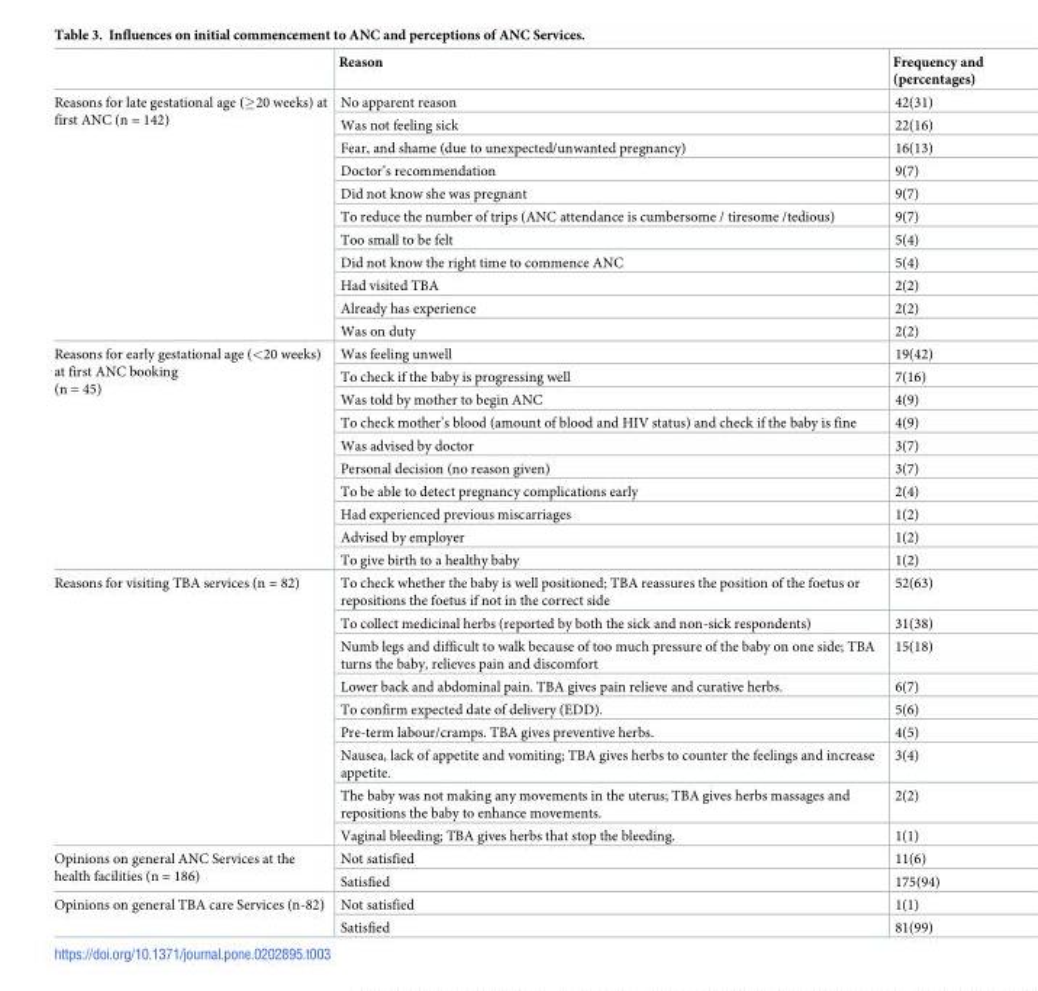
<table><thead><tr><td></td><td>Reason</td><td>Frequency and (percentages)</td></tr></thead><tbody><tr><td rowspan="11">Reasons for late gestational age (≥20 weeks) at first ANC (n = 142)</td><td>No apparent reason</td><td>42(31)</td></tr><tr><td>Was not feeling sick</td><td>22(16)</td></tr><tr><td>Fear, and shame (due to unexpected/unwanted pregnancy)</td><td>16(13)</td></tr><tr><td>Doctor’s recommendation</td><td>9(7)</td></tr><tr><td>Did not know she was pregnant</td><td>9(7)</td></tr><tr><td>To reduce the number of trips (ANC attendance is cumbersome / tiresome /tedious)</td><td>9(7)</td></tr><tr><td>Too small to be felt</td><td>5(4)</td></tr><tr><td>Did not know the right time to commence ANC</td><td>5(4)</td></tr><tr><td>Had visited TBA</td><td>2(2)</td></tr><tr><td>Already has experience</td><td>2(2)</td></tr><tr><td>Was on duty</td><td>2(2)</td></tr><tr><td rowspan="10">Reasons for early gestational age (&lt;20 weeks) at first ANC booking (n = 45)</td><td>Was feeling unwell</td><td>19(42)</td></tr><tr><td>To check if the baby is progressing well</td><td>7(16)</td></tr><tr><td>Was told by mother to begin ANC</td><td>4(9)</td></tr><tr><td>To check mother’s blood (amount of blood and HIV status) and check if the baby is fine</td><td>4(9)</td></tr><tr><td>Was advised by doctor</td><td>3(7)</td></tr><tr><td>Personal decision (no reason given)</td><td>3(7)</td></tr><tr><td>To be able to detect pregnancy complications early</td><td>2(4)</td></tr><tr><td>Had experienced previous miscarriages</td><td>1(2)</td></tr><tr><td>Advised by employer</td><td>1(2)</td></tr><tr><td>To give birth to a healthy baby</td><td>1(2)</td></tr><tr><td rowspan="9">Reasons for visiting TBA services (n = 82)</td><td>To check whether the baby is well positioned; TBA reassures the position of the foetus or repositions the foetus if not in the correct side</td><td>52(63)</td></tr><tr><td>To collect medicinal herbs (reported by both the sick and non-sick respondents)</td><td>31(38)</td></tr><tr><td>Numb legs and difficult to walk because of too much pressure of the baby on one side; TBA turns the baby, relieves pain and discomfort</td><td>15(18)</td></tr><tr><td>Lower back and abdominal pain. TBA gives pain relieve and curative herbs.</td><td>6(7)</td></tr><tr><td>To confirm expected date of delivery (EDD).</td><td>5(6)</td></tr><tr><td>Pre-term labour/cramps. TBA gives preventive herbs.</td><td>4(5)</td></tr><tr><td>Nausea, lack of appetite and vomiting; TBA gives herbs to counter the feelings and increase appetite.</td><td>3(4)</td></tr><tr><td>The baby was not making any movements in the uterus; TBA gives herbs massages and repositions the baby to enhance movements.</td><td>2(2)</td></tr><tr><td>Vaginal bleeding; TBA gives herbs that stop the bleeding.</td><td>1(1)</td></tr><tr><td rowspan="2">Opinions on general ANC Services at the health facilities (n = 186)</td><td>Not satisfied</td><td>11(6)</td></tr><tr><td>Satisfied</td><td>175(94)</td></tr><tr><td rowspan="2">Opinions on general TBA care Services (n-82)</td><td>Not satisfied</td><td>1(1)</td></tr><tr><td>Satisfied</td><td>81(99)</td></tr></tbody></table>